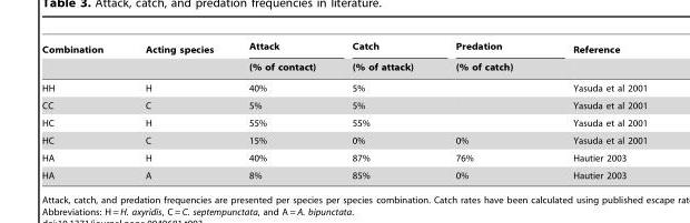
<table><thead><tr><td rowspan="2">Combination</td><td rowspan="2">Acting species</td><td rowspan="2">Attack (% of contact)</td><td rowspan="2">Catch (% of attack)</td><td rowspan="2">Predation (% of catch)</td><td rowspan="2">Reference</td></tr><tr></tr></thead><tbody><tr><td>HH</td><td>H</td><td>40%</td><td>5%</td><td></td><td>Yasuda et al 2001</td></tr><tr><td>CC</td><td>C</td><td>5%</td><td>5%</td><td></td><td>Yasuda et al 2001</td></tr><tr><td>HC</td><td>H</td><td>55%</td><td>55%</td><td></td><td>Yasuda et al 2001</td></tr><tr><td>HC</td><td>C</td><td>15%</td><td>0%</td><td>0%</td><td>Yasuda et al 2001</td></tr><tr><td>HA</td><td>H</td><td>40%</td><td>87%</td><td>76%</td><td>Hautier 2003</td></tr><tr><td>HA</td><td>A</td><td>8%</td><td>85%</td><td>0%</td><td>Hautier 2003</td></tr></tbody></table>